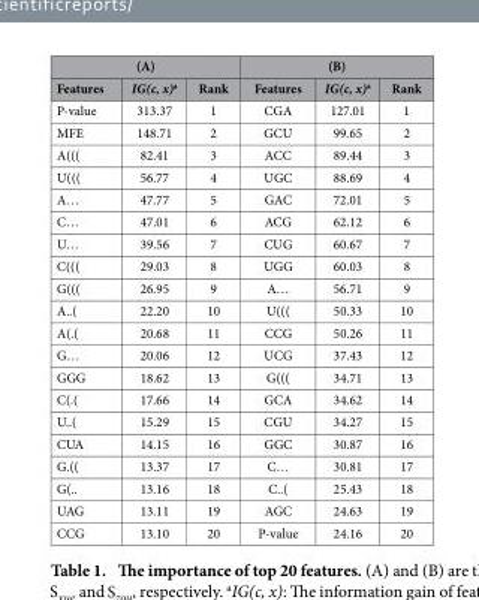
<table><thead><tr><td colspan="3">(A)</td><td colspan="3">(B)</td></tr><tr><td>Features</td><td>IG(c, x)<sup>a</sup></td><td>Rank</td><td>Features</td><td>IG(c, x)<sup>a</sup></td><td>Rank</td></tr></thead><tbody><tr><td>P-value</td><td>313.37</td><td>1</td><td>CGA</td><td>127.01</td><td>1</td></tr><tr><td>MFE</td><td>148.71</td><td>2</td><td>GCU</td><td>99.65</td><td>2</td></tr><tr><td>A(((</td><td>82.41</td><td>3</td><td>ACC</td><td>89.44</td><td>3</td></tr><tr><td>U(((</td><td>56.77</td><td>4</td><td>UGC</td><td>88.69</td><td>4</td></tr><tr><td>A…</td><td>47.77</td><td>5</td><td>GAC</td><td>72.01</td><td>5</td></tr><tr><td>C…</td><td>47.01</td><td>6</td><td>ACG</td><td>62.12</td><td>6</td></tr><tr><td>U…</td><td>39.56</td><td>7</td><td>CUG</td><td>60.67</td><td>7</td></tr><tr><td>C(((</td><td>29.03</td><td>8</td><td>UGG</td><td>60.03</td><td>8</td></tr><tr><td>G(((</td><td>26.95</td><td>9</td><td>A…</td><td>56.71</td><td>9</td></tr><tr><td>A..(</td><td>22.20</td><td>10</td><td>U(((</td><td>50.33</td><td>10</td></tr><tr><td>A(.(</td><td>20.68</td><td>11</td><td>CCG</td><td>50.26</td><td>11</td></tr><tr><td>G…</td><td>20.06</td><td>12</td><td>UCG</td><td>37.43</td><td>12</td></tr><tr><td>GGG</td><td>18.62</td><td>13</td><td>G(((</td><td>34.71</td><td>13</td></tr><tr><td>C(.(</td><td>17.66</td><td>14</td><td>GCA</td><td>34.62</td><td>14</td></tr><tr><td>U..(</td><td>15.29</td><td>15</td><td>CGU</td><td>34.27</td><td>15</td></tr><tr><td>CUA</td><td>14.15</td><td>16</td><td>GGC</td><td>30.87</td><td>16</td></tr><tr><td>G.((</td><td>13.37</td><td>17</td><td>C…</td><td>30.81</td><td>17</td></tr><tr><td>G(..</td><td>13.16</td><td>18</td><td>C..(</td><td>25.43</td><td>18</td></tr><tr><td>UAG</td><td>13.11</td><td>19</td><td>AGC</td><td>24.63</td><td>19</td></tr><tr><td>CCG</td><td>13.10</td><td>20</td><td>P-value</td><td>24.16</td><td>20</td></tr></tbody></table>